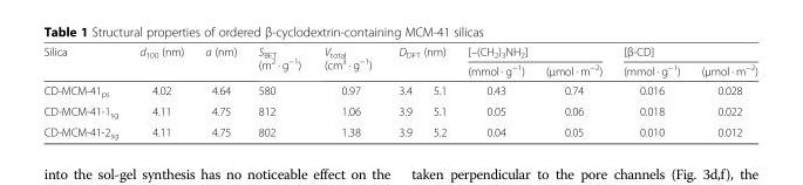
<table><thead><tr><td rowspan="3">Silica CD-MCM-41<sub>ps</sub></td><td rowspan="3">d<sub>100</sub> (nm) 4.02</td><td rowspan="3">a (nm) 4.64</td><td rowspan="3">S<sub>BET</sub> (m<sup>2</sup> · g<sup>−1</sup>) 580</td><td rowspan="3">V<sub>total</sub> (cm<sup>3</sup> · g<sup>−1</sup>) 0.97</td><td rowspan="2" colspan="2">D<sub>DFT</sub> (nm)</td><td colspan="2">[–(CH<sub>2</sub>)<sub>3</sub>NH<sub>2</sub>]</td><td colspan="2">[β-CD]</td></tr><tr><td rowspan="2">(mmol · g<sup>−1</sup>) 0.43</td><td rowspan="2">(μmol · m<sup>−2</sup>) 0.74</td><td rowspan="2">(mmol · g<sup>−1</sup>) 0.016</td><td rowspan="2">(μmol · m<sup>−2</sup>) 0.028</td></tr><tr><td>3.4</td><td>5.1</td></tr></thead><tbody><tr><td>CD-MCM-41-1<sub>sg</sub></td><td>4.11</td><td>4.75</td><td>812</td><td>1.06</td><td>3.9</td><td>5.1</td><td>0.05</td><td>0.06</td><td>0.018</td><td>0.022</td></tr><tr><td>CD-MCM-41-2<sub>sg</sub></td><td>4.11</td><td>4.75</td><td>802</td><td>1.38</td><td>3.9</td><td>5.2</td><td>0.04</td><td>0.05</td><td>0.010</td><td>0.012</td></tr></tbody></table>